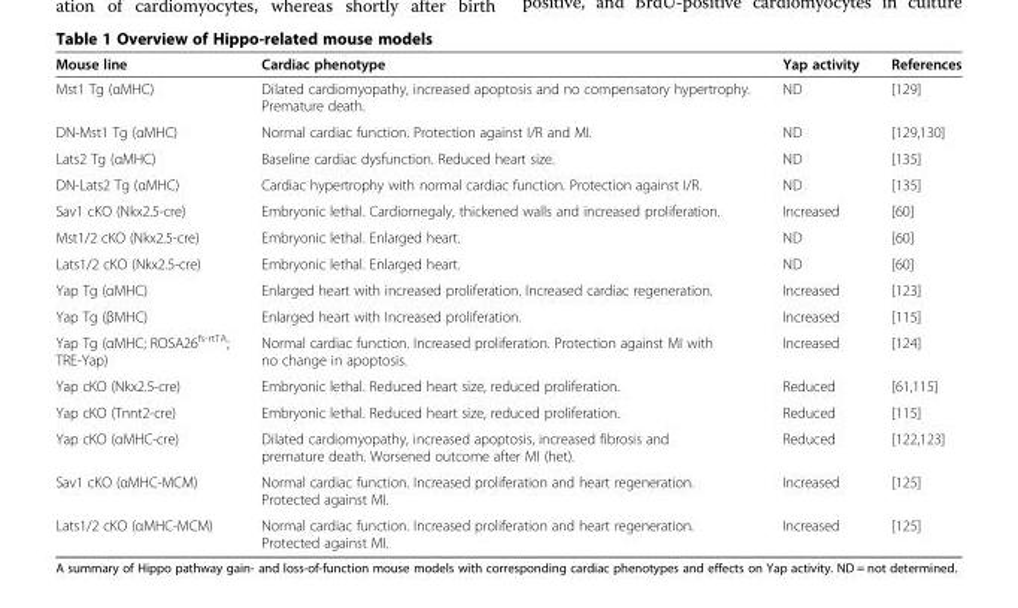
<table><thead><tr><td>Mouse line</td><td>Cardiac phenotype</td><td>Yap activity</td><td>References</td></tr></thead><tbody><tr><td>Mst1 Tg (αMHC)</td><td>Dilated cardiomyopathy, increased apoptosis and no compensatory hypertrophy. Premature death.</td><td>ND</td><td>[129]</td></tr><tr><td>DN-Mst1 Tg (αMHC)</td><td>Normal cardiac function. Protection against I/R and MI.</td><td>ND</td><td>[129,130]</td></tr><tr><td>Lats2 Tg (αMHC)</td><td>Baseline cardiac dysfunction. Reduced heart size.</td><td>ND</td><td>[135]</td></tr><tr><td>DN-Lats2 Tg (αMHC)</td><td>Cardiac hypertrophy with normal cardiac function. Protection against I/R.</td><td>ND</td><td>[135]</td></tr><tr><td>Sav1 cKO (Nkx2.5-cre)</td><td>Embryonic lethal. Cardiomegaly, thickened walls and increased proliferation.</td><td>Increased</td><td>[60]</td></tr><tr><td>Mst1/2 cKO (Nkx2.5-cre)</td><td>Embryonic lethal. Enlarged heart.</td><td>ND</td><td>[60]</td></tr><tr><td>Lats1/2 cKO (Nkx2.5-cre)</td><td>Embryonic lethal. Enlarged heart.</td><td>ND</td><td>[60]</td></tr><tr><td>Yap Tg (αMHC)</td><td>Enlarged heart with increased proliferation. Increased cardiac regeneration.</td><td>Increased</td><td>[123]</td></tr><tr><td>Yap Tg (βMHC)</td><td>Enlarged heart with Increased proliferation.</td><td>Increased</td><td>[115]</td></tr><tr><td>Yap Tg (αMHC; ROSA26<sup>fs-rtTA</sup>; TRE-Yap)</td><td>Normal cardiac function. Increased proliferation. Protection against MI with no change in apoptosis.</td><td>Increased</td><td>[124]</td></tr><tr><td>Yap cKO (Nkx2.5-cre)</td><td>Embryonic lethal. Reduced heart size, reduced proliferation.</td><td>Reduced</td><td>[61,115]</td></tr><tr><td>Yap cKO (Tnnt2-cre)</td><td>Embryonic lethal. Reduced heart size, reduced proliferation.</td><td>Reduced</td><td>[115]</td></tr><tr><td>Yap cKO (αMHC-cre)</td><td>Dilated cardiomyopathy, increased apoptosis, increased fibrosis and premature death. Worsened outcome after MI (het).</td><td>Reduced</td><td>[122,123]</td></tr><tr><td>Sav1 cKO (αMHC-MCM)</td><td>Normal cardiac function. Increased proliferation and heart regeneration. Protected against MI.</td><td>Increased</td><td>[125]</td></tr><tr><td>Lats1/2 cKO (αMHC-MCM)</td><td>Normal cardiac function. Increased proliferation and heart regeneration. Protected against MI.</td><td>Increased</td><td>[125]</td></tr></tbody></table>